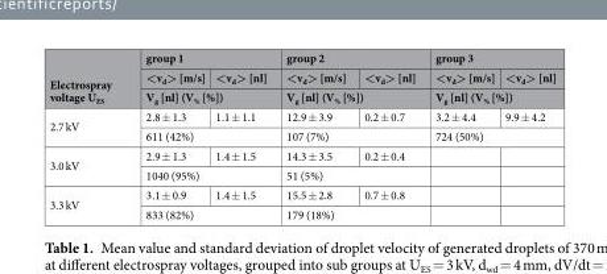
<table><thead><tr><td rowspan="3">Electrospray voltage U<sub>ES</sub></td><td colspan="2">group 1</td><td colspan="2">group 2</td><td colspan="2">group 3</td></tr><tr><td>&lt;v<sub>d</sub>&gt; [m/s]</td><td>&lt;v<sub>d</sub>&gt; [nl]</td><td>&lt;v<sub>d</sub>&gt; [m/s]</td><td>&lt;v<sub>d</sub>&gt; [nl]</td><td>&lt;v<sub>d</sub>&gt; [m/s]</td><td>&lt;v<sub>d</sub>&gt; [nl]</td></tr><tr><td colspan="2">V<sub>g</sub> [nl] (V<sub>%</sub> [%])</td><td colspan="2">V<sub>g</sub> [nl] (V<sub>%</sub> [%])</td><td colspan="2">V<sub>g</sub> [nl] (V<sub>%</sub> [%])</td></tr></thead><tbody><tr><td rowspan="2">2.7 kV</td><td>2.8 ± 1.3</td><td>1.1 ± 1.1</td><td>12.9 ± 3.9</td><td>0.2 ± 0.7</td><td>3.2 ± 4.4</td><td>9.9 ± 4.2</td></tr><tr><td colspan="2">611 (42%)</td><td colspan="2">107 (7%)</td><td colspan="2">724 (50%)</td></tr><tr><td rowspan="2">3.0 kV</td><td>2.9 ± 1.3</td><td>1.4 ± 1.5</td><td>14.3 ± 3.5</td><td>0.2 ± 0.4</td><td></td><td></td></tr><tr><td colspan="2">1040 (95%)</td><td colspan="2">51 (5%)</td><td></td><td></td></tr><tr><td rowspan="2">3.3 kV</td><td>3.1 ± 0.9</td><td>1.4 ± 1.5</td><td>15.5 ± 2.8</td><td>0.7 ± 0.8</td><td></td><td></td></tr><tr><td colspan="2">833 (82%)</td><td colspan="2">179 (18%)</td><td></td><td></td></tr></tbody></table>